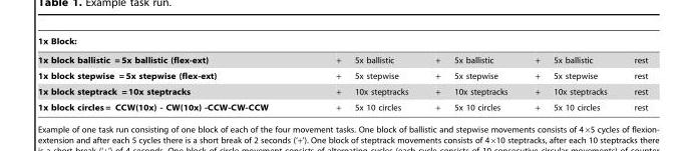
<table><thead><tr><td>1x Block:</td><td></td><td></td><td></td><td></td><td></td><td></td><td></td></tr></thead><tbody><tr><td>1x block ballistic = 5x ballistic (flex-ext)</td><td>+</td><td>5x ballistic</td><td>+</td><td>5x ballistic</td><td>+</td><td>5x ballistic</td><td>rest</td></tr><tr><td>1x block stepwise = 5x stepwise (flex-ext)</td><td>+</td><td>5x stepwise</td><td>+</td><td>5x stepwise</td><td>+</td><td>5x stepwise</td><td>rest</td></tr><tr><td>1x block steptrack = 10x steptracks</td><td>+</td><td>10x steptracks</td><td>+</td><td>10x steptracks</td><td>+</td><td>10x steptracks</td><td>rest</td></tr><tr><td>1x block circles = CCW(10x) - CW(10x) -CCW-CW-CCW</td><td>+</td><td>5x 10 circles</td><td>+</td><td>5x 10 circles</td><td>+</td><td>5x 10 circles</td><td>rest</td></tr></tbody></table>